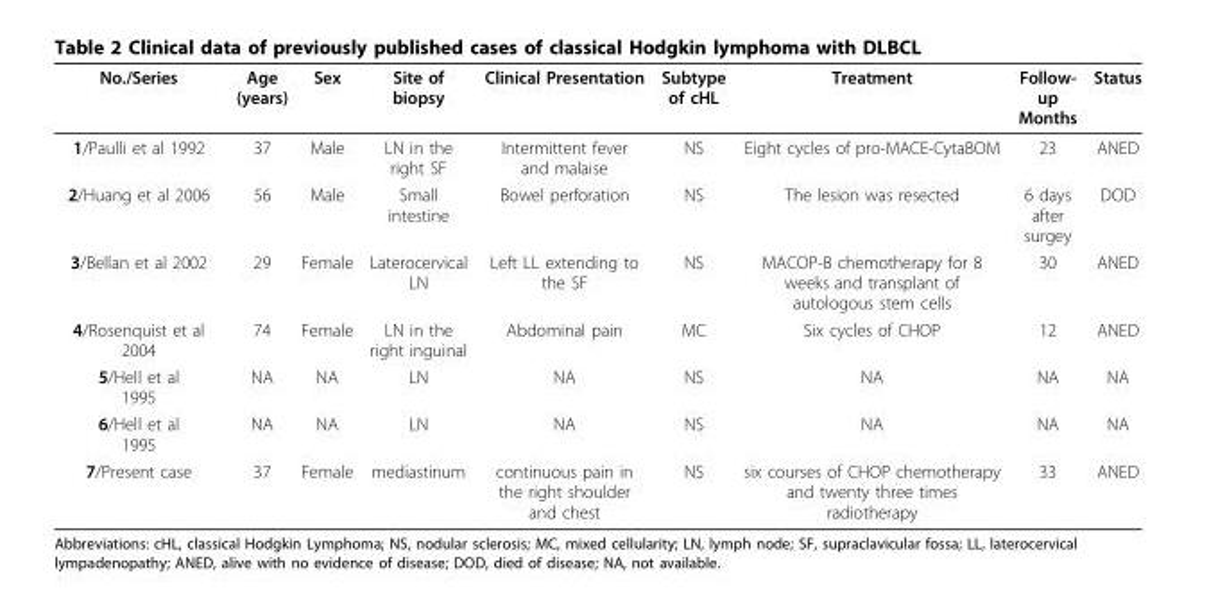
<table><thead><tr><td>No./Series</td><td>Age (years)</td><td>Sex</td><td>Site of biopsy</td><td>Clinical Presentation</td><td>Subtype of cHL</td><td>Treatment</td><td>Follow- up Months</td><td>Status</td></tr></thead><tbody><tr><td>1/Paulli et al 1992</td><td>37</td><td>Male</td><td>LN in the right SF</td><td>Intermittent fever and malaise</td><td>NS</td><td>Eight cycles of pro-MACE-CytaBOM</td><td>23</td><td>ANED</td></tr><tr><td>2/Huang et al 2006</td><td>56</td><td>Male</td><td>Small intestine</td><td>Bowel perforation</td><td>NS</td><td>The lesion was resected</td><td>6 days after surgey</td><td>DOD</td></tr><tr><td>3/Bellan et al 2002</td><td>29</td><td>Female</td><td>Laterocervical LN</td><td>Left LL extending to the SF</td><td>NS</td><td>MACOP-B chemotherapy for 8 weeks and transplant of autologous stem cells</td><td>30</td><td>ANED</td></tr><tr><td>4/Rosenquist et al 2004</td><td>74</td><td>Female</td><td>LN in the right inguinal</td><td>Abdominal pain</td><td>MC</td><td>Six cycles of CHOP</td><td>12</td><td>ANED</td></tr><tr><td>5/Hell et al 1995</td><td>NA</td><td>NA</td><td>LN</td><td>NA</td><td>NS</td><td>NA</td><td>NA</td><td>NA</td></tr><tr><td>6/Hell et al 1995</td><td>NA</td><td>NA</td><td>LN</td><td>NA</td><td>NS</td><td>NA</td><td>NA</td><td>NA</td></tr><tr><td>7/Present case</td><td>37</td><td>Female</td><td>mediastinum</td><td>continuous pain in the right shoulder and chest</td><td>NS</td><td>six courses of CHOP chemotherapy and twenty three times radiotherapy</td><td>33</td><td>ANED</td></tr></tbody></table>